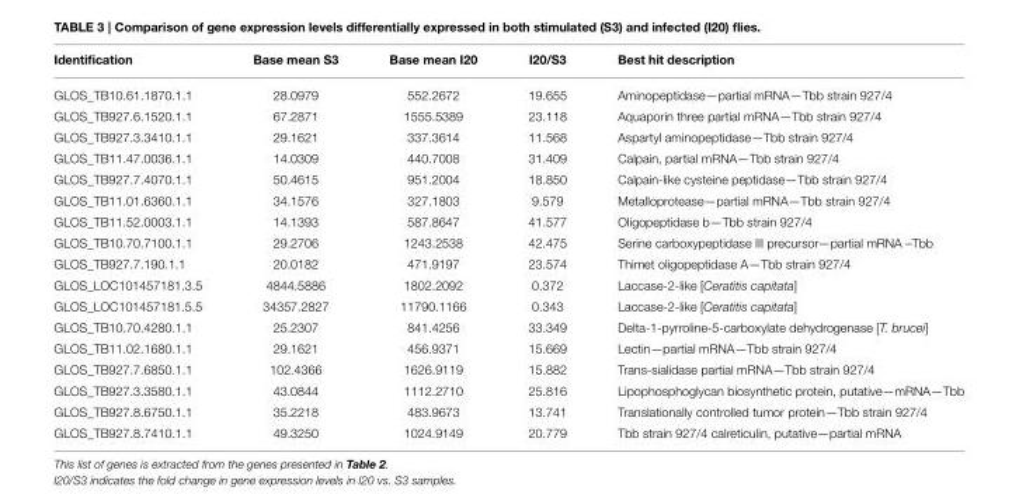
<table><thead><tr><td>Identification</td><td>Base mean S3</td><td>Base mean I20</td><td>I20/S3</td><td>Best hit description</td></tr></thead><tbody><tr><td>GLOS_TB10.61.1870.1.1</td><td>28.0979</td><td>552.2672</td><td>19.655</td><td>Aminopeptidase—partial mRNA—Tbb strain 927/4</td></tr><tr><td>GLOS_TB927.6.1520.1.1</td><td>67.2871</td><td>1555.5389</td><td>23.118</td><td>Aquaporin three partial mRNA—Tbb strain 927/4</td></tr><tr><td>GLOS_TB927.3.3410.1.1</td><td>29.1621</td><td>337.3614</td><td>11.568</td><td>Aspartyl aminopeptidase—Tbb strain 927/4</td></tr><tr><td>GLOS_TB11.47.0036.1.1</td><td>14.0309</td><td>440.7008</td><td>31.409</td><td>Calpain, partial mRNA—Tbb strain 927/4</td></tr><tr><td>GLOS_TB927.7.4070.1.1</td><td>50.4615</td><td>951.2004</td><td>18.850</td><td>Calpain-like cysteine peptidase—Tbb strain 927/4</td></tr><tr><td>GLOS_TB11.01.6360.1.1</td><td>34.1576</td><td>327.1803</td><td>9.579</td><td>Metalloprotease—partial mRNA—Tbb strain 927/4</td></tr><tr><td>GLOS_TB11.52.0003.1.1</td><td>14.1393</td><td>587.8647</td><td>41.577</td><td>Oligopeptidase b—Tbb strain 927/4</td></tr><tr><td>GLOS_TB10.70.7100.1.1</td><td>29.2706</td><td>1243.2538</td><td>42.475</td><td>Serine carboxypeptidase III precursor—partial mRNA –Tbb</td></tr><tr><td>GLOS_TB927.7.190.1.1</td><td>20.0182</td><td>471.9197</td><td>23.574</td><td>Thimet oligopeptidase A—Tbb strain 927/4</td></tr><tr><td>GLOS_LOC101457181.3.5</td><td>4844.5886</td><td>1802.2092</td><td>0.372</td><td>Laccase-2-like [Ceratitis capitata]</td></tr><tr><td>GLOS_LOC101457181.5.5</td><td>34357.2827</td><td>11790.1166</td><td>0.343</td><td>Laccase-2-like [Ceratitis capitata]</td></tr><tr><td>GLOS_TB10.70.4280.1.1</td><td>25.2307</td><td>841.4256</td><td>33.349</td><td>Delta-1-pyrroline-5-carboxylate dehydrogenase [T. brucei]</td></tr><tr><td>GLOS_TB11.02.1680.1.1</td><td>29.1621</td><td>456.9371</td><td>15.669</td><td>Lectin—partial mRNA—Tbb strain 927/4</td></tr><tr><td>GLOS_TB927.7.6850.1.1</td><td>102.4366</td><td>1626.9119</td><td>15.882</td><td>Trans-sialidase partial mRNA—Tbb strain 927/4</td></tr><tr><td>GLOS_TB927.3.3580.1.1</td><td>43.0844</td><td>1112.2710</td><td>25.816</td><td>Lipophosphoglycan biosynthetic protein, putative—mRNA—Tbb</td></tr><tr><td>GLOS_TB927.8.6750.1.1</td><td>35.2218</td><td>483.9673</td><td>13.741</td><td>Translationally controlled tumor protein—Tbb strain 927/4</td></tr><tr><td>GLOS_TB927.8.7410.1.1</td><td>49.3250</td><td>1024.9149</td><td>20.779</td><td>Tbb strain 927/4 calreticulin, putative—partial mRNA</td></tr></tbody></table>